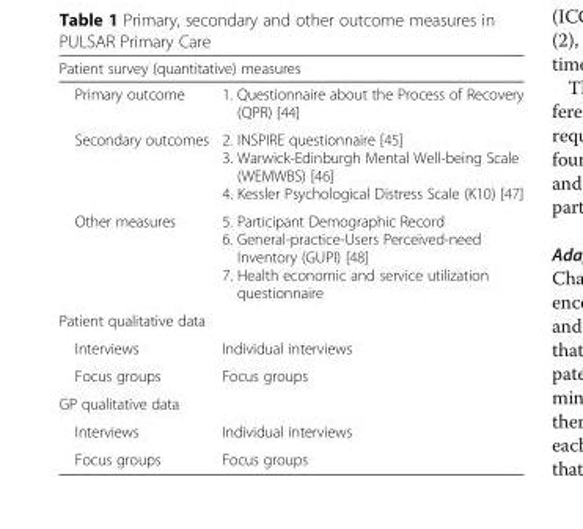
<table><thead><tr><td colspan="2">Patient survey (quantitative) measures</td></tr><tr><td>Primary outcome</td><td>1. Questionnaire about the Process of Recovery (QPR) [44]</td></tr></thead><tbody><tr><td>Secondary outcomes</td><td>2. INSPIRE questionnaire [45] 3. Warwick-Edinburgh Mental Well-being Scale (WEMWBS) [46] 4. Kessler Psychological Distress Scale (K10) [47]</td></tr><tr><td>Other measures</td><td>5. Participant Demographic Record 6. General-practice-Users Perceived-need Inventory (GUPI) [48] 7. Health economic and service utilization questionnaire</td></tr><tr><td colspan="2">Patient qualitative data</td></tr><tr><td>Interviews</td><td>Individual interviews</td></tr><tr><td>Focus groups</td><td>Focus groups</td></tr><tr><td colspan="2">GP qualitative data</td></tr><tr><td>Interviews</td><td>Individual interviews</td></tr><tr><td>Focus groups</td><td>Focus groups</td></tr></tbody></table>